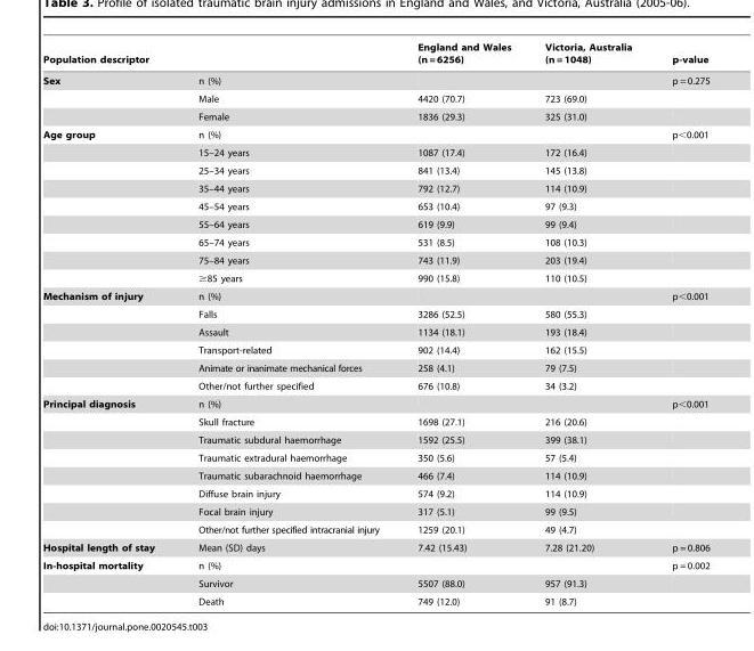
<table><thead><tr><td colspan="2">Population descriptor</td><td rowspan="2">England and Wales (n = 6256)</td><td rowspan="2">Victoria, Australia (n = 1048)</td><td rowspan="2">p-value p = 0.275</td></tr><tr><td>Sex</td><td>n (%)</td></tr></thead><tbody><tr><td></td><td>Male</td><td>4420 (70.7)</td><td>723 (69.0)</td><td></td></tr><tr><td></td><td>Female</td><td>1836 (29.3)</td><td>325 (31.0)</td><td></td></tr><tr><td rowspan="9">Age group</td><td>n (%)</td><td></td><td></td><td>p&lt;0.001</td></tr><tr><td>15–24 years</td><td>1087 (17.4)</td><td>172 (16.4)</td><td></td></tr><tr><td>25–34 years</td><td>841 (13.4)</td><td>145 (13.8)</td><td></td></tr><tr><td>35–44 years</td><td>792 (12.7)</td><td>114 (10.9)</td><td></td></tr><tr><td>45–54 years</td><td>653 (10.4)</td><td>97 (9.3)</td><td></td></tr><tr><td>55–64 years</td><td>619 (9.9)</td><td>99 (9.4)</td><td></td></tr><tr><td>65–74 years</td><td>531 (8.5)</td><td>108 (10.3)</td><td></td></tr><tr><td>75–84 years</td><td>743 (11.9)</td><td>203 (19.4)</td><td></td></tr><tr><td>≥85 years</td><td>990 (15.8)</td><td>110 (10.5)</td><td></td></tr><tr><td rowspan="6">Mechanism of injury</td><td>n (%)</td><td></td><td></td><td>p&lt;0.001</td></tr><tr><td>Falls</td><td>3286 (52.5)</td><td>580 (55.3)</td><td></td></tr><tr><td>Assault</td><td>1134 (18.1)</td><td>193 (18.4)</td><td></td></tr><tr><td>Transport-related</td><td>902 (14.4)</td><td>162 (15.5)</td><td></td></tr><tr><td>Animate or inanimate mechanical forces</td><td>258 (4.1)</td><td>79 (7.5)</td><td></td></tr><tr><td>Other/not further specified</td><td>676 (10.8)</td><td>34 (3.2)</td><td></td></tr><tr><td rowspan="8">Principal diagnosis</td><td>n (%)</td><td></td><td></td><td>p&lt;0.001</td></tr><tr><td>Skull fracture</td><td>1698 (27.1)</td><td>216 (20.6)</td><td></td></tr><tr><td>Traumatic subdural haemorrhage</td><td>1592 (25.5)</td><td>399 (38.1)</td><td></td></tr><tr><td>Traumatic extradural haemorrhage</td><td>350 (5.6)</td><td>57 (5.4)</td><td></td></tr><tr><td>Traumatic subarachnoid haemorrhage</td><td>466 (7.4)</td><td>114 (10.9)</td><td></td></tr><tr><td>Diffuse brain injury</td><td>574 (9.2)</td><td>114 (10.9)</td><td></td></tr><tr><td>Focal brain injury</td><td>317 (5.1)</td><td>99 (9.5)</td><td></td></tr><tr><td>Other/not further specified intracranial injury</td><td>1259 (20.1)</td><td>49 (4.7)</td><td></td></tr><tr><td>Hospital length of stay</td><td>Mean (SD) days</td><td>7.42 (15.43)</td><td>7.28 (21.20)</td><td>p = 0.806</td></tr><tr><td rowspan="3">In-hospital mortality</td><td>n (%)</td><td></td><td></td><td>p = 0.002</td></tr><tr><td>Survivor</td><td>5507 (88.0)</td><td>957 (91.3)</td><td></td></tr><tr><td>Death</td><td>749 (12.0)</td><td>91 (8.7)</td><td></td></tr></tbody></table>